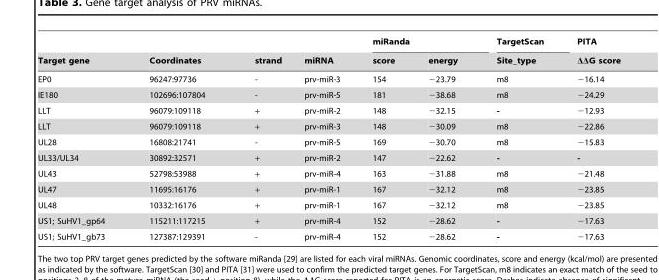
<table><thead><tr><td rowspan="2">Target gene</td><td rowspan="2">Coordinates</td><td rowspan="2">strand</td><td rowspan="2">miRNA</td><td colspan="2">miRanda</td><td rowspan="2">TargetScan Site_type</td><td rowspan="2">PITA ΔΔG score</td></tr><tr><td>score</td><td>energy</td></tr></thead><tbody><tr><td>EP0</td><td>96247:97736</td><td>-</td><td>prv-miR-3</td><td>154</td><td>−23.79</td><td>m8</td><td>−16.14</td></tr><tr><td>IE180</td><td>102696:107804</td><td>-</td><td>prv-miR-5</td><td>181</td><td>−38.68</td><td>m8</td><td>−24.29</td></tr><tr><td>LLT</td><td>96079:109118</td><td>+</td><td>prv-miR-2</td><td>148</td><td>−32.15</td><td>-</td><td>−12.93</td></tr><tr><td>LLT</td><td>96079:109118</td><td>+</td><td>prv-miR-3</td><td>148</td><td>−30.09</td><td>m8</td><td>−22.86</td></tr><tr><td>UL28</td><td>16808:21741</td><td>-</td><td>prv-miR-5</td><td>169</td><td>−30.70</td><td>m8</td><td>−15.83</td></tr><tr><td>UL33/UL34</td><td>30892:32571</td><td>+</td><td>prv-miR-2</td><td>147</td><td>−22.62</td><td>-</td><td>-</td></tr><tr><td>UL43</td><td>52798:53988</td><td>+</td><td>prv-miR-4</td><td>163</td><td>−31.88</td><td>m8</td><td>−21.48</td></tr><tr><td>UL47</td><td>11695:16176</td><td>+</td><td>prv-miR-1</td><td>167</td><td>−32.12</td><td>m8</td><td>−23.85</td></tr><tr><td>UL48</td><td>10332:16176</td><td>+</td><td>prv-miR-1</td><td>167</td><td>−32.12</td><td>m8</td><td>−23.85</td></tr><tr><td>US1; SuHV1_gp64</td><td>115211:117215</td><td>+</td><td>prv-miR-4</td><td>152</td><td>−28.62</td><td>-</td><td>−17.63</td></tr><tr><td>US1; SuHV1_gb73</td><td>127387:129391</td><td>-</td><td>prv-miR-4</td><td>152</td><td>−28.62</td><td>-</td><td>−17.63</td></tr></tbody></table>